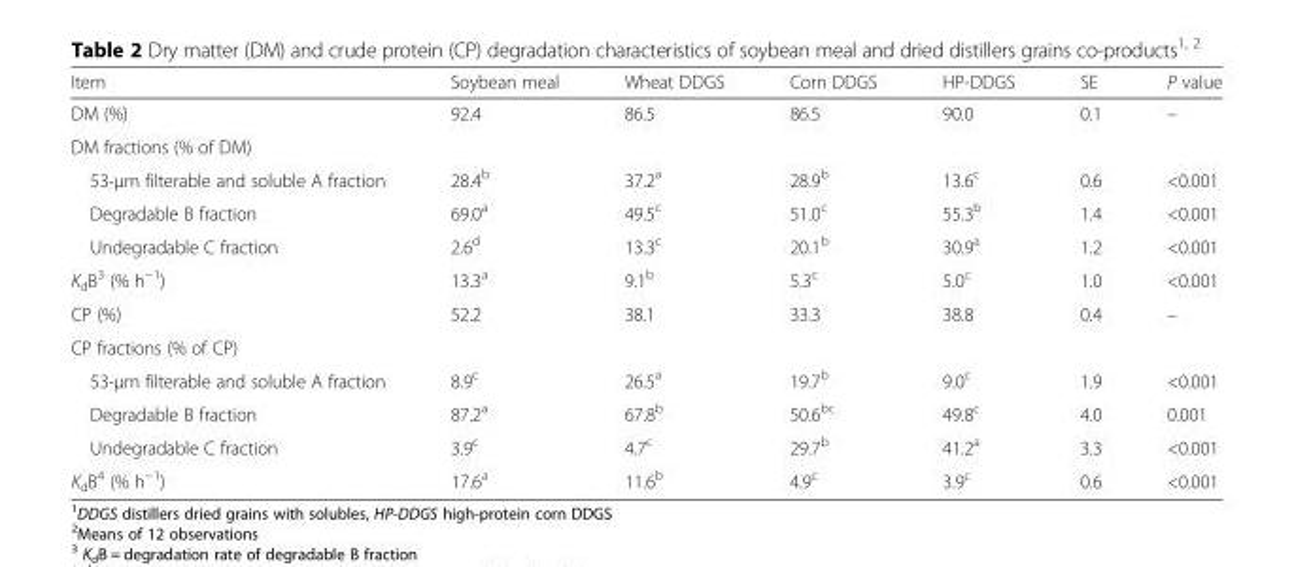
<table><thead><tr><td>Item</td><td>Soybean meal</td><td>Wheat DDGS</td><td>Corn DDGS</td><td>HP-DDGS</td><td>SE</td><td>P value</td></tr></thead><tbody><tr><td>DM (%)</td><td>92.4</td><td>86.5</td><td>86.5</td><td>90.0</td><td>0.1</td><td>–</td></tr><tr><td colspan="7">DM fractions (% of DM)</td></tr><tr><td>53-μm filterable and soluble A fraction</td><td>28.4<sup>b</sup></td><td>37.2<sup>a</sup></td><td>28.9<sup>b</sup></td><td>13.6<sup>c</sup></td><td>0.6</td><td>&lt;0.001</td></tr><tr><td>Degradable B fraction</td><td>69.0<sup>a</sup></td><td>49.5<sup>c</sup></td><td>51.0<sup>c</sup></td><td>55.3<sup>b</sup></td><td>1.4</td><td>&lt;0.001</td></tr><tr><td>Undegradable C fraction</td><td>2.6<sup>d</sup></td><td>13.3<sup>c</sup></td><td>20.1<sup>b</sup></td><td>30.9<sup>a</sup></td><td>1.2</td><td>&lt;0.001</td></tr><tr><td>K<sub>d</sub>B<sup>3</sup> (% h<sup>−1</sup>)</td><td>13.3<sup>a</sup></td><td>9.1<sup>b</sup></td><td>5.3<sup>c</sup></td><td>5.0<sup>c</sup></td><td>1.0</td><td>&lt;0.001</td></tr><tr><td>CP (%)</td><td>52.2</td><td>38.1</td><td>33.3</td><td>38.8</td><td>0.4</td><td>–</td></tr><tr><td colspan="7">CP fractions (% of CP)</td></tr><tr><td>53-μm filterable and soluble A fraction</td><td>8.9<sup>c</sup></td><td>26.5<sup>a</sup></td><td>19.7<sup>b</sup></td><td>9.0<sup>c</sup></td><td>1.9</td><td>&lt;0.001</td></tr><tr><td>Degradable B fraction</td><td>87.2<sup>a</sup></td><td>67.8<sup>b</sup></td><td>50.6<sup>bc</sup></td><td>49.8<sup>c</sup></td><td>4.0</td><td>0.001</td></tr><tr><td>Undegradable C fraction</td><td>3.9<sup>c</sup></td><td>4.7<sup>c</sup></td><td>29.7<sup>b</sup></td><td>41.2<sup>a</sup></td><td>3.3</td><td>&lt;0.001</td></tr><tr><td>K<sub>d</sub>B<sup>4</sup> (% h<sup>−1</sup>)</td><td>17.6<sup>a</sup></td><td>11.6<sup>b</sup></td><td>4.9<sup>c</sup></td><td>3.9<sup>c</sup></td><td>0.6</td><td>&lt;0.001</td></tr></tbody></table>